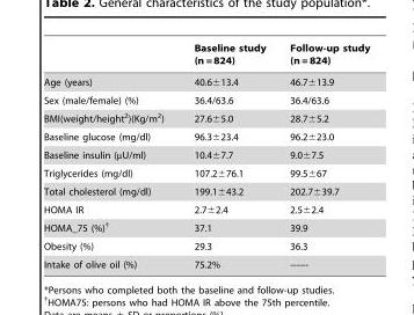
<table><thead><tr><td></td><td>Baseline study (n = 824)</td><td>Follow-up study (n = 824)</td></tr></thead><tbody><tr><td>Age (years)</td><td>40.6±13.4</td><td>46.7±13.9</td></tr><tr><td>Sex (male/female) (%)</td><td>36.4/63.6</td><td>36.4/63.6</td></tr><tr><td>BMI(weight/height<sup>2</sup>)(Kg/m<sup>2</sup>)</td><td>27.6±5.0</td><td>28.7±5.2</td></tr><tr><td>Baseline glucose (mg/dl)</td><td>96.3±23.4</td><td>96.2±23.0</td></tr><tr><td>Baseline insulin (µU/ml)</td><td>10.4±7.7</td><td>9.0±7.5</td></tr><tr><td>Triglycerides (mg/dl)</td><td>107.2±76.1</td><td>99.5±67</td></tr><tr><td>Total cholesterol (mg/dl)</td><td>199.1±43.2</td><td>202.7±39.7</td></tr><tr><td>HOMA IR</td><td>2.7±2.4</td><td>2.5±2.4</td></tr><tr><td>HOMA_75 (%)†</td><td>37.1</td><td>39.9</td></tr><tr><td>Obesity (%)</td><td>29.3</td><td>36.3</td></tr><tr><td>Intake of olive oil (%)</td><td>75.2%</td><td>------</td></tr></tbody></table>